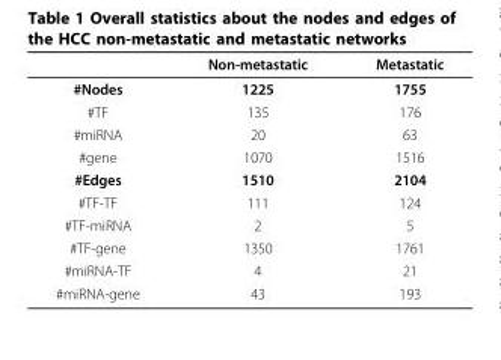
<table><thead><tr><td></td><td>Non-metastatic</td><td>Metastatic</td></tr></thead><tbody><tr><td>#Nodes</td><td>1225</td><td>1755</td></tr><tr><td>#TF</td><td>135</td><td>176</td></tr><tr><td>#miRNA</td><td>20</td><td>63</td></tr><tr><td>#gene</td><td>1070</td><td>1516</td></tr><tr><td>#Edges</td><td>1510</td><td>2104</td></tr><tr><td>#TF-TF</td><td>111</td><td>124</td></tr><tr><td>#TF-miRNA</td><td>2</td><td>5</td></tr><tr><td>#TF-gene</td><td>1350</td><td>1761</td></tr><tr><td>#miRNA-TF</td><td>4</td><td>21</td></tr><tr><td>#miRNA-gene</td><td>43</td><td>193</td></tr></tbody></table>